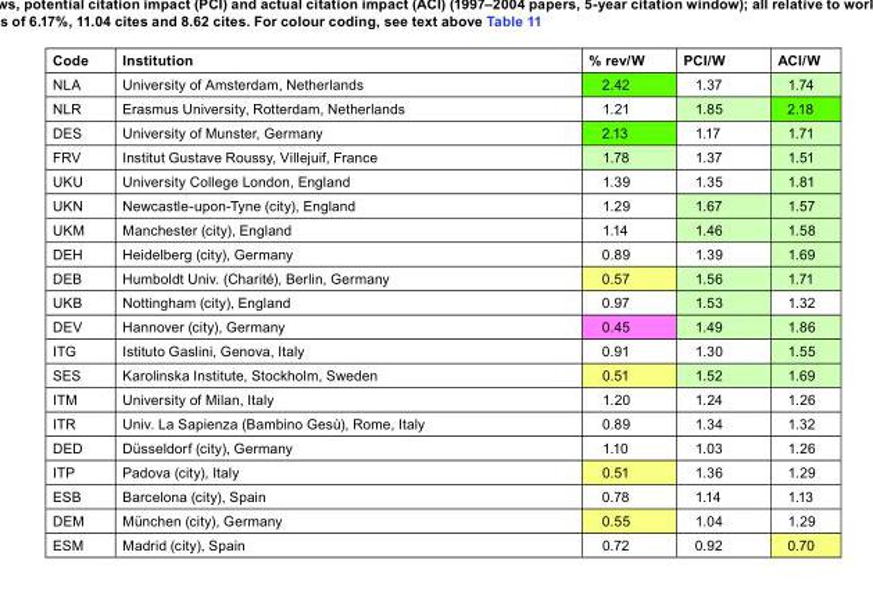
<table><thead><tr><td>Code</td><td>Institution</td><td>% rev/W</td><td>PCI/W</td><td>ACI/W</td></tr></thead><tbody><tr><td>NLA</td><td>University of Amsterdam, Netherlands</td><td>2.42</td><td>1.37</td><td>1.74</td></tr><tr><td>NLR</td><td>Erasmus University, Rotterdam, Netherlands</td><td>1.21</td><td>1.85</td><td>2.18</td></tr><tr><td>DES</td><td>University of Munster, Germany</td><td>2.13</td><td>1.17</td><td>1.71</td></tr><tr><td>FRV</td><td>Institut Gustave Roussy, Villejuif, France</td><td>1.78</td><td>1.37</td><td>1.51</td></tr><tr><td>UKU</td><td>University College London, England</td><td>1.39</td><td>1.35</td><td>1.81</td></tr><tr><td>UKN</td><td>Newcastle-upon-Tyne (city), England</td><td>1.29</td><td>1.67</td><td>1.57</td></tr><tr><td>UKM</td><td>Manchester (city), England</td><td>1.14</td><td>1.46</td><td>1.58</td></tr><tr><td>DEH</td><td>Heidelberg (city), Germany</td><td>0.89</td><td>1.39</td><td>1.69</td></tr><tr><td>DEB</td><td>Humboldt Univ. (Charité), Berlin, Germany</td><td>0.57</td><td>1.56</td><td>1.71</td></tr><tr><td>UKB</td><td>Nottingham (city), England</td><td>0.97</td><td>1.53</td><td>1.32</td></tr><tr><td>DEV</td><td>Hannover (city), Germany</td><td>0.45</td><td>1.49</td><td>1.86</td></tr><tr><td>ITG</td><td>Istituto Gaslini, Genova, Italy</td><td>0.91</td><td>1.30</td><td>1.55</td></tr><tr><td>SES</td><td>Karolinska Institute, Stockholm, Sweden</td><td>0.51</td><td>1.52</td><td>1.69</td></tr><tr><td>ITM</td><td>University of Milan, Italy</td><td>1.20</td><td>1.24</td><td>1.26</td></tr><tr><td>ITR</td><td>Univ. La Sapienza (Bambino Gesù), Rome, Italy</td><td>0.89</td><td>1.34</td><td>1.32</td></tr><tr><td>DED</td><td>Düsseldorf (city), Germany</td><td>1.10</td><td>1.03</td><td>1.26</td></tr><tr><td>ITP</td><td>Padova (city), Italy</td><td>0.51</td><td>1.36</td><td>1.29</td></tr><tr><td>ESB</td><td>Barcelona (city), Spain</td><td>0.78</td><td>1.14</td><td>1.13</td></tr><tr><td>DEM</td><td>München (city), Germany</td><td>0.55</td><td>1.04</td><td>1.29</td></tr><tr><td>ESM</td><td>Madrid (city), Spain</td><td>0.72</td><td>0.92</td><td>0.70</td></tr></tbody></table>